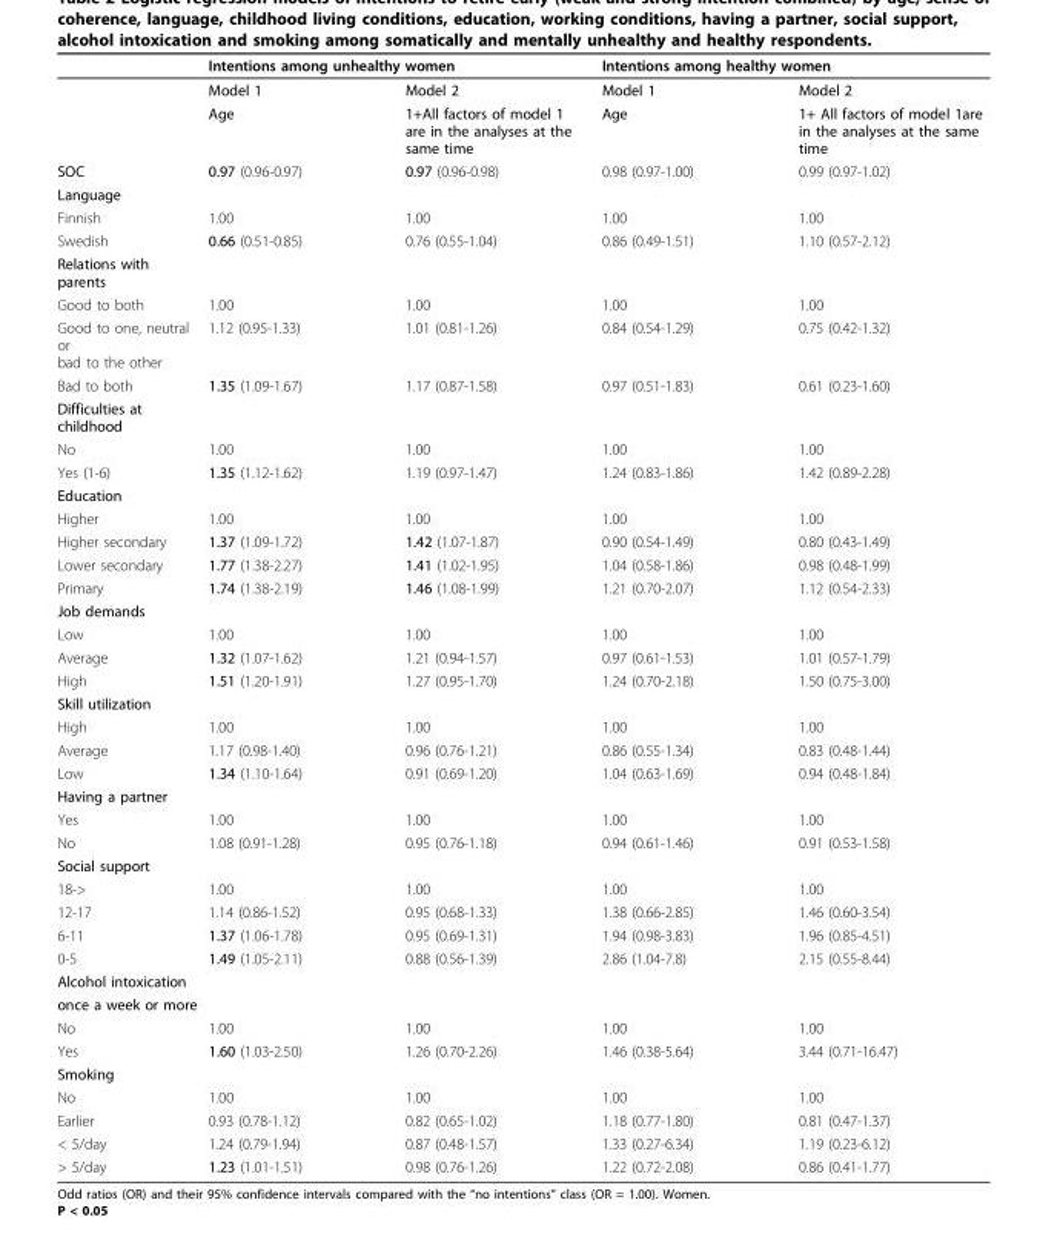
<table><thead><tr><td rowspan="3"></td><td colspan="2">Intentions among unhealthy women</td><td colspan="2">Intentions among healthy women</td></tr><tr><td rowspan="2">Model 1 Age</td><td rowspan="2">Model 2 1+All factors of model 1 are in the analyses at the same time</td><td rowspan="2">Model 1 Age</td><td rowspan="2">Model 2 1+ All factors of model 1are in the analyses at the same time</td></tr><tr></tr></thead><tbody><tr><td>SOC</td><td>0.97 (0.96-0.97)</td><td>0.97 (0.96-0.98)</td><td>0.98 (0.97-1.00)</td><td>0.99 (0.97-1.02)</td></tr><tr><td colspan="5">Language</td></tr><tr><td>Finnish</td><td>1.00</td><td>1.00</td><td>1.00</td><td>1.00</td></tr><tr><td>Swedish</td><td>0.66 (0.51-0.85)</td><td>0.76 (0.55-1.04)</td><td>0.86 (0.49-1.51)</td><td>1.10 (0.57-2.12)</td></tr><tr><td colspan="5">Relations with parents</td></tr><tr><td>Good to both</td><td>1.00</td><td>1.00</td><td>1.00</td><td>1.00</td></tr><tr><td>Good to one, neutral or bad to the other</td><td>1.12 (0.95-1.33)</td><td>1.01 (0.81-1.26)</td><td>0.84 (0.54-1.29)</td><td>0.75 (0.42-1.32)</td></tr><tr><td>Bad to both</td><td>1.35 (1.09-1.67)</td><td>1.17 (0.87-1.58)</td><td>0.97 (0.51-1.83)</td><td>0.61 (0.23-1.60)</td></tr><tr><td colspan="5">Difficulties at childhood</td></tr><tr><td>No</td><td>1.00</td><td>1.00</td><td>1.00</td><td>1.00</td></tr><tr><td>Yes (1-6)</td><td>1.35 (1.12-1.62)</td><td>1.19 (0.97-1.47)</td><td>1.24 (0.83-1.86)</td><td>1.42 (0.89-2.28)</td></tr><tr><td colspan="5">Education</td></tr><tr><td>Higher</td><td>1.00</td><td>1.00</td><td>1.00</td><td>1.00</td></tr><tr><td>Higher secondary</td><td>1.37 (1.09-1.72)</td><td>1.42 (1.07-1.87)</td><td>0.90 (0.54-1.49)</td><td>0.80 (0.43-1.49)</td></tr><tr><td>Lower secondary</td><td>1.77 (1.38-2.27)</td><td>1.41 (1.02-1.95)</td><td>1.04 (0.58-1.86)</td><td>0.98 (0.48-1.99)</td></tr><tr><td>Primary</td><td>1.74 (1.38-2.19)</td><td>1.46 (1.08-1.99)</td><td>1.21 (0.70-2.07)</td><td>1.12 (0.54-2.33)</td></tr><tr><td colspan="5">Job demands</td></tr><tr><td>Low</td><td>1.00</td><td>1.00</td><td>1.00</td><td>1.00</td></tr><tr><td>Average</td><td>1.32 (1.07-1.62)</td><td>1.21 (0.94-1.57)</td><td>0.97 (0.61-1.53)</td><td>1.01 (0.57-1.79)</td></tr><tr><td>High</td><td>1.51 (1.20-1.91)</td><td>1.27 (0.95-1.70)</td><td>1.24 (0.70-2.18)</td><td>1.50 (0.75-3.00)</td></tr><tr><td colspan="5">Skill utilization</td></tr><tr><td>High</td><td>1.00</td><td>1.00</td><td>1.00</td><td>1.00</td></tr><tr><td>Average</td><td>1.17 (0.98-1.40)</td><td>0.96 (0.76-1.21)</td><td>0.86 (0.55-1.34)</td><td>0.83 (0.48-1.44)</td></tr><tr><td>Low</td><td>1.34 (1.10-1.64)</td><td>0.91 (0.69-1.20)</td><td>1.04 (0.63-1.69)</td><td>0.94 (0.48-1.84)</td></tr><tr><td colspan="5">Having a partner</td></tr><tr><td>Yes</td><td>1.00</td><td>1.00</td><td>1.00</td><td>1.00</td></tr><tr><td>No</td><td>1.08 (0.91-1.28)</td><td>0.95 (0.76-1.18)</td><td>0.94 (0.61-1.46)</td><td>0.91 (0.53-1.58)</td></tr><tr><td colspan="5">Social support</td></tr><tr><td>18-&gt;</td><td>1.00</td><td>1.00</td><td>1.00</td><td>1.00</td></tr><tr><td>12-17</td><td>1.14 (0.86-1.52)</td><td>0.95 (0.68-1.33)</td><td>1.38 (0.66-2.85)</td><td>1.46 (0.60-3.54)</td></tr><tr><td>6-11</td><td>1.37 (1.06-1.78)</td><td>0.95 (0.69-1.31)</td><td>1.94 (0.98-3.83)</td><td>1.96 (0.85-4.51)</td></tr><tr><td>0-5</td><td>1.49 (1.05-2.11)</td><td>0.88 (0.56-1.39)</td><td>2.86 (1.04-7.8)</td><td>2.15 (0.55-8.44)</td></tr><tr><td colspan="5">Alcohol intoxication</td></tr><tr><td colspan="5">once a week or more</td></tr><tr><td>No</td><td>1.00</td><td>1.00</td><td>1.00</td><td>1.00</td></tr><tr><td>Yes</td><td>1.60 (1.03-2.50)</td><td>1.26 (0.70-2.26)</td><td>1.46 (0.38-5.64)</td><td>3.44 (0.71-16.47)</td></tr><tr><td colspan="5">Smoking</td></tr><tr><td>No</td><td>1.00</td><td>1.00</td><td>1.00</td><td>1.00</td></tr><tr><td>Earlier</td><td>0.93 (0.78-1.12)</td><td>0.82 (0.65-1.02)</td><td>1.18 (0.77-1.80)</td><td>0.81 (0.47-1.37)</td></tr><tr><td>&lt; 5/day</td><td>1.24 (0.79-1.94)</td><td>0.87 (0.48-1.57)</td><td>1.33 (0.27-6.34)</td><td>1.19 (0.23-6.12)</td></tr><tr><td>&gt; 5/day</td><td>1.23 (1.01-1.51)</td><td>0.98 (0.76-1.26)</td><td>1.22 (0.72-2.08)</td><td>0.86 (0.41-1.77)</td></tr></tbody></table>